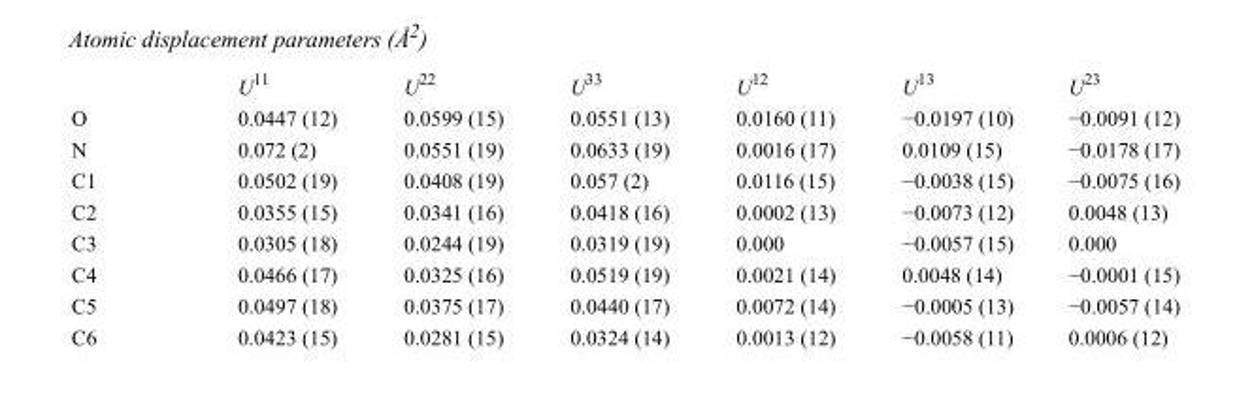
<table><thead><tr><td></td><td>U<sup>11</sup></td><td>U<sup>22</sup></td><td>U<sup>33</sup></td><td>U<sup>12</sup></td><td>U<sup>13</sup></td><td>U<sup>23</sup></td></tr></thead><tbody><tr><td>O</td><td>0.0447 (12)</td><td>0.0599 (15)</td><td>0.0551 (13)</td><td>0.0160 (11)</td><td>−0.0197 (10)</td><td>−0.0091 (12)</td></tr><tr><td>N</td><td>0.072 (2)</td><td>0.0551 (19)</td><td>0.0633 (19)</td><td>0.0016 (17)</td><td>0.0109 (15)</td><td>−0.0178 (17)</td></tr><tr><td>C1</td><td>0.0502 (19)</td><td>0.0408 (19)</td><td>0.057 (2)</td><td>0.0116 (15)</td><td>−0.0038 (15)</td><td>−0.0075 (16)</td></tr><tr><td>C2</td><td>0.0355 (15)</td><td>0.0341 (16)</td><td>0.0418 (16)</td><td>0.0002 (13)</td><td>−0.0073 (12)</td><td>0.0048 (13)</td></tr><tr><td>C3</td><td>0.0305 (18)</td><td>0.0244 (19)</td><td>0.0319 (19)</td><td>0.000</td><td>−0.0057 (15)</td><td>0.000</td></tr><tr><td>C4</td><td>0.0466 (17)</td><td>0.0325 (16)</td><td>0.0519 (19)</td><td>0.0021 (14)</td><td>0.0048 (14)</td><td>−0.0001 (15)</td></tr><tr><td>C5</td><td>0.0497 (18)</td><td>0.0375 (17)</td><td>0.0440 (17)</td><td>0.0072 (14)</td><td>−0.0005 (13)</td><td>−0.0057 (14)</td></tr><tr><td>C6</td><td>0.0423 (15)</td><td>0.0281 (15)</td><td>0.0324 (14)</td><td>0.0013 (12)</td><td>−0.0058 (11)</td><td>0.0006 (12)</td></tr></tbody></table>